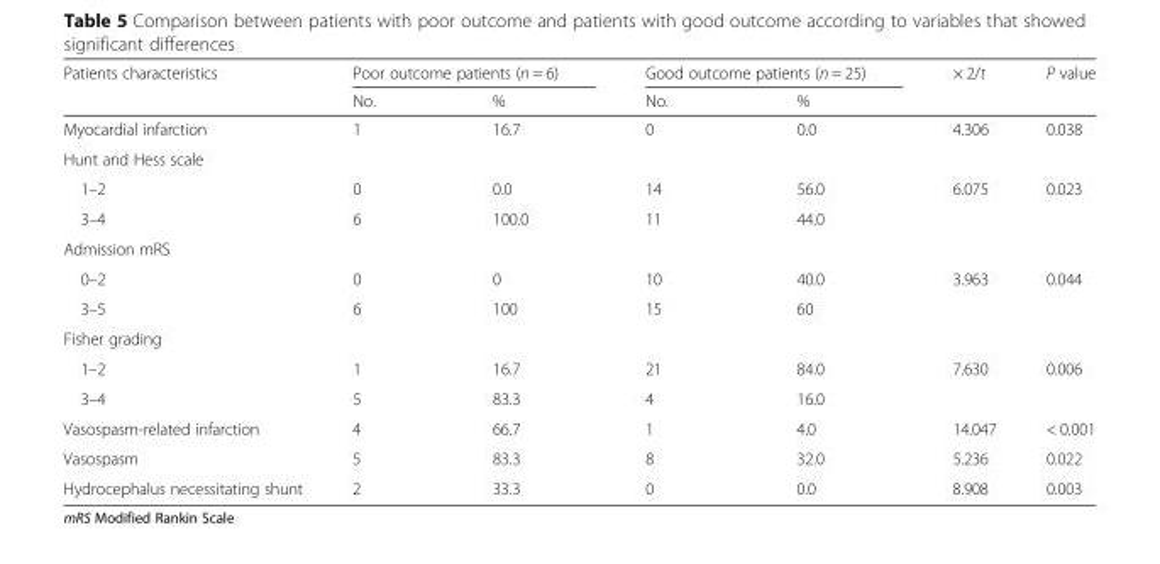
<table><thead><tr><td rowspan="2">Patients characteristics</td><td colspan="2">Poor outcome patients (n = 6)</td><td colspan="2">Good outcome patients (n = 25)</td><td rowspan="2">× 2/t</td><td rowspan="2">P value</td></tr><tr><td>No.</td><td>%</td><td>No.</td><td>%</td></tr></thead><tbody><tr><td>Myocardial infarction</td><td>1</td><td>16.7</td><td>0</td><td>0.0</td><td>4.306</td><td>0.038</td></tr><tr><td colspan="7">Hunt and Hess scale</td></tr><tr><td>1–2</td><td>0</td><td>0.0</td><td>14</td><td>56.0</td><td rowspan="2">6.075</td><td rowspan="2">0.023</td></tr><tr><td>3–4</td><td>6</td><td>100.0</td><td>11</td><td>44.0</td></tr><tr><td colspan="7">Admission mRS</td></tr><tr><td>0–2</td><td>0</td><td>0</td><td>10</td><td>40.0</td><td rowspan="2">3.963</td><td rowspan="2">0.044</td></tr><tr><td>3–5</td><td>6</td><td>100</td><td>15</td><td>60</td></tr><tr><td colspan="7">Fisher grading</td></tr><tr><td>1–2</td><td>1</td><td>16.7</td><td>21</td><td>84.0</td><td rowspan="2">7.630</td><td rowspan="2">0.006</td></tr><tr><td>3–4</td><td>5</td><td>83.3</td><td>4</td><td>16.0</td></tr><tr><td>Vasospasm-related infarction</td><td>4</td><td>66.7</td><td>1</td><td>4.0</td><td>14.047</td><td>&lt; 0.001</td></tr><tr><td>Vasospasm</td><td>5</td><td>83.3</td><td>8</td><td>32.0</td><td>5.236</td><td>0.022</td></tr><tr><td>Hydrocephalus necessitating shunt</td><td>2</td><td>33.3</td><td>0</td><td>0.0</td><td>8.908</td><td>0.003</td></tr></tbody></table>